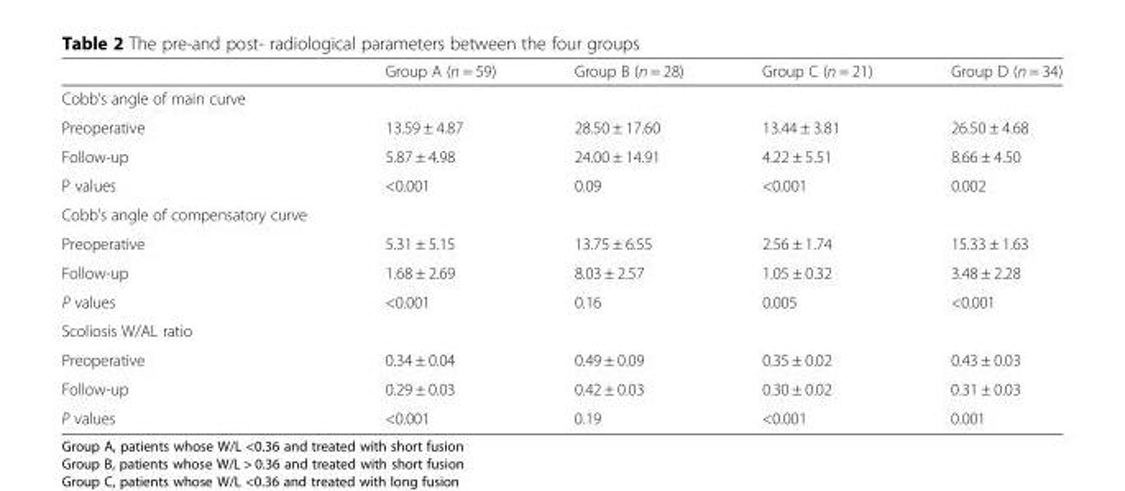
<table><thead><tr><td></td><td>Group A (n = 59)</td><td>Group B (n = 28)</td><td>Group C (n = 21)</td><td>Group D (n = 34)</td></tr></thead><tbody><tr><td colspan="5">Cobb’s angle of main curve</td></tr><tr><td>Preoperative</td><td>13.59 ± 4.87</td><td>28.50 ± 17.60</td><td>13.44 ± 3.81</td><td>26.50 ± 4.68</td></tr><tr><td>Follow-up</td><td>5.87 ± 4.98</td><td>24.00 ± 14.91</td><td>4.22 ± 5.51</td><td>8.66 ± 4.50</td></tr><tr><td>P values</td><td>&lt;0.001</td><td>0.09</td><td>&lt;0.001</td><td>0.002</td></tr><tr><td colspan="5">Cobb’s angle of compensatory curve</td></tr><tr><td>Preoperative</td><td>5.31 ± 5.15</td><td>13.75 ± 6.55</td><td>2.56 ± 1.74</td><td>15.33 ± 1.63</td></tr><tr><td>Follow-up</td><td>1.68 ± 2.69</td><td>8.03 ± 2.57</td><td>1.05 ± 0.32</td><td>3.48 ± 2.28</td></tr><tr><td>P values</td><td>&lt;0.001</td><td>0.16</td><td>0.005</td><td>&lt;0.001</td></tr><tr><td colspan="5">Scoliosis W/AL ratio</td></tr><tr><td>Preoperative</td><td>0.34 ± 0.04</td><td>0.49 ± 0.09</td><td>0.35 ± 0.02</td><td>0.43 ± 0.03</td></tr><tr><td>Follow-up</td><td>0.29 ± 0.03</td><td>0.42 ± 0.03</td><td>0.30 ± 0.02</td><td>0.31 ± 0.03</td></tr><tr><td>P values</td><td>&lt;0.001</td><td>0.19</td><td>&lt;0.001</td><td>0.001</td></tr></tbody></table>